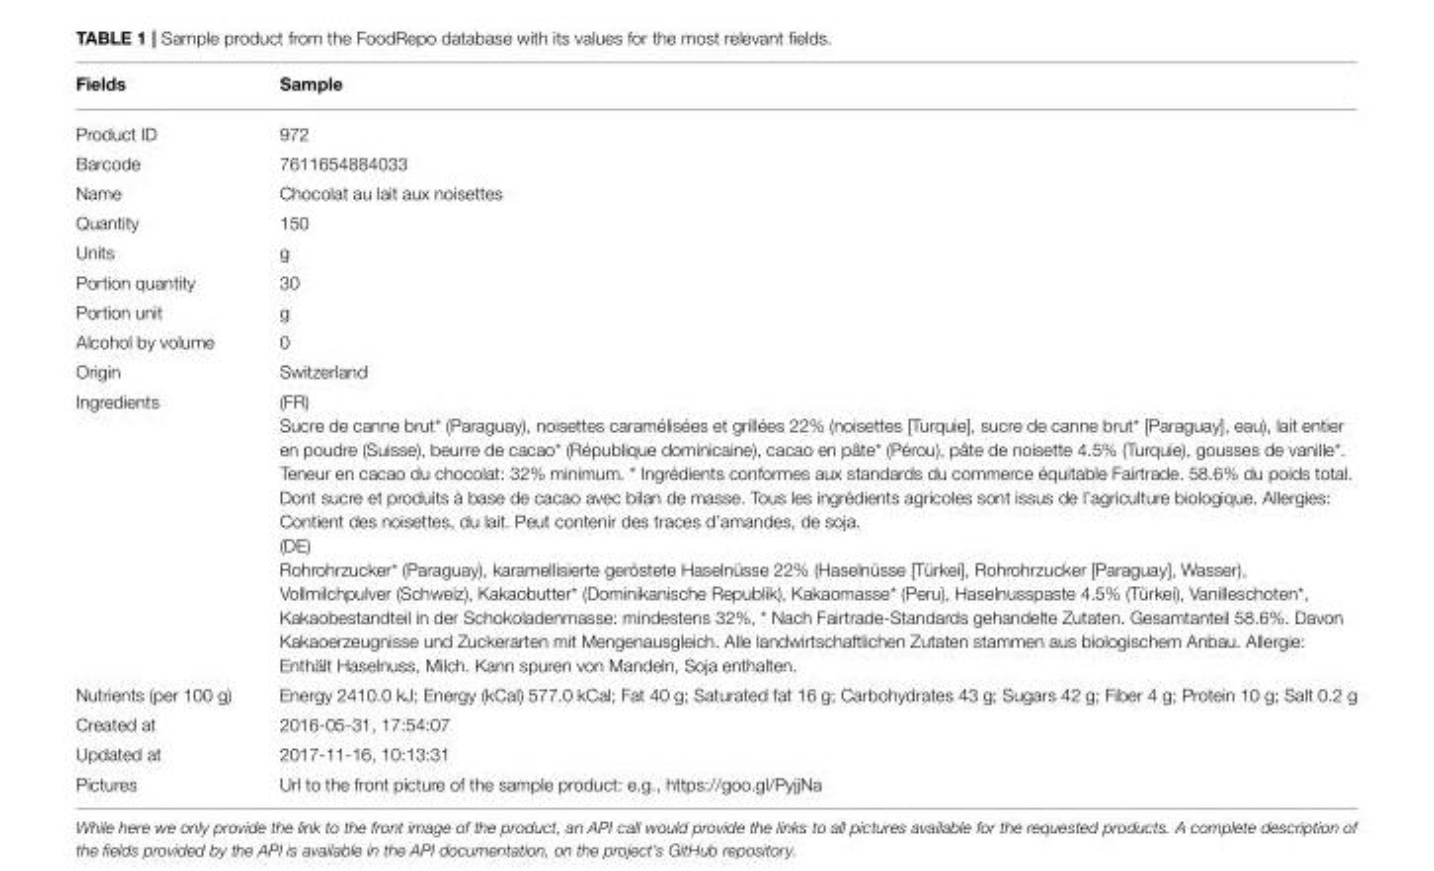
<table><thead><tr><td>Fields</td><td>Sample</td></tr></thead><tbody><tr><td>Product ID</td><td>972</td></tr><tr><td>Barcode</td><td>7611654884033</td></tr><tr><td>Name</td><td>Chocolat au lait aux noisettes</td></tr><tr><td>Quantity</td><td>150</td></tr><tr><td>Units</td><td>g</td></tr><tr><td>Portion quantity</td><td>30</td></tr><tr><td>Portion unit</td><td>g</td></tr><tr><td>Alcohol by volume</td><td>0</td></tr><tr><td>Origin</td><td>Switzerland</td></tr><tr><td>Ingredients</td><td>(FR) Sucre de canne brut* (Paraguay), noisettes caramélisées et grillées 22% (noisettes [Turquie], sucre de canne brut* [Paraguay], eau), lait entier en poudre (Suisse), beurre de cacao* (République dominicaine), cacao en pâte* (Pérou), pâte de noisette 4.5% (Turquie), gousses de vanille*. Teneur en cacao du chocolat: 32% minimum. * Ingrédients conformes aux standards du commerce équitable Fairtrade. 58.6% du poids total. Dont sucre et produits à base de cacao avec bilan de masse. Tous les ingrédients agricoles sont issus de l’agriculture biologique. Allergies: Contient des noisettes, du lait. Peut contenir des traces d’amandes, de soja. (DE) Rohrohrzucker* (Paraguay), karamellisierte geröstete Haselnüsse 22% (Haselnüsse [Türkei], Rohrohrzucker [Paraguay], Wasser), Vollmilchpulver (Schweiz), Kakaobutter* (Dominikanische Republik), Kakaomasse* (Peru), Haselnusspaste 4.5% (Türkei), Vanilleschoten*, Kakaobestandteil in der Schokoladenmasse: mindestens 32%, * Nach Fairtrade-Standards gehandelte Zutaten. Gesamtanteil 58.6%. Davon Kakaoerzeugnisse und Zuckerarten mit Mengenausgleich. Alle landwirtschaftlichen Zutaten stammen aus biologischem Anbau. Allergie: Enthält Haselnuss, Milch. Kann spuren von Mandeln, Soja enthalten.</td></tr><tr><td>Nutrients (per 100 g)</td><td>Energy 2410.0 kJ; Energy (kCal) 577.0 kCal; Fat 40 g; Saturated fat 16 g; Carbohydrates 43 g; Sugars 42 g; Fiber 4 g; Protein 10 g; Salt 0.2 g</td></tr><tr><td>Created at</td><td>2016-05-31, 17:54:07</td></tr><tr><td>Updated at</td><td>2017-11-16, 10:13:31</td></tr><tr><td>Pictures</td><td>Url to the front picture of the sample product: e.g., https://goo.gl/PyjjNa</td></tr></tbody></table>